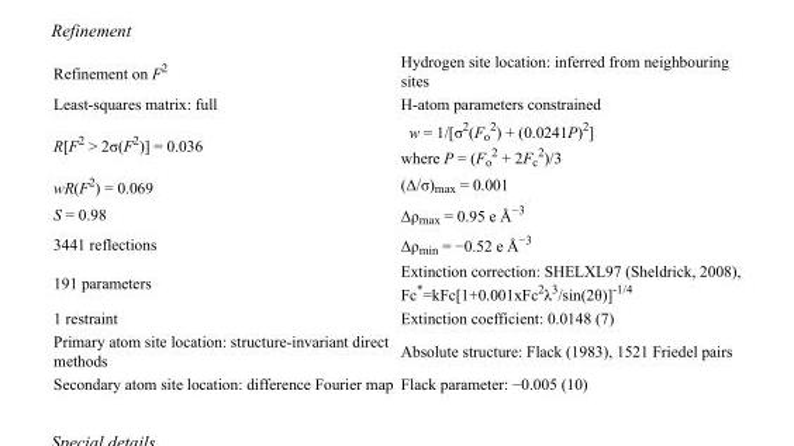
<table><tbody><tr><td>Refinement on F<sup>2</sup></td><td>Hydrogen site location: inferred from neighbouring sites</td></tr><tr><td>Least-squares matrix: full</td><td>H-atom parameters constrained</td></tr><tr><td>R[F<sup>2</sup> &gt; 2σ(F<sup>2</sup>)] = 0.036</td><td>w = 1/[σ<sup>2</sup>(F<sub>o</sub> <sup>2</sup>) + (0.0241P)<sup>2</sup>] where P = (F<sub>o</sub> <sup>2</sup> + 2F<sub>c</sub> <sup>2</sup>)/3</td></tr><tr><td>wR(F<sup>2</sup>) = 0.069</td><td>(Δ/σ)<sub>max</sub> = 0.001</td></tr><tr><td>S = 0.98</td><td>Δρ<sub>max</sub> = 0.95 e Å<sup>−3</sup></td></tr><tr><td>3441 reflections</td><td>Δρ<sub>min</sub> = −0.52 e Å<sup>−3</sup></td></tr><tr><td>191 parameters</td><td>Extinction correction: SHELXL97 (Sheldrick, 2008), Fc*=kFc[1+0.001xFc<sup>2</sup>λ<sup>3</sup>/sin(2θ)]<sup>-1/4</sup></td></tr><tr><td>1 restraint</td><td>Extinction coefficient: 0.0148 (7)</td></tr><tr><td>Primary atom site location: structure-invariant direct methods</td><td>Absolute structure: Flack (1983), 1521 Friedel pairs</td></tr><tr><td>Secondary atom site location: difference Fourier map</td><td>Flack parameter: −0.005 (10)</td></tr></tbody></table>